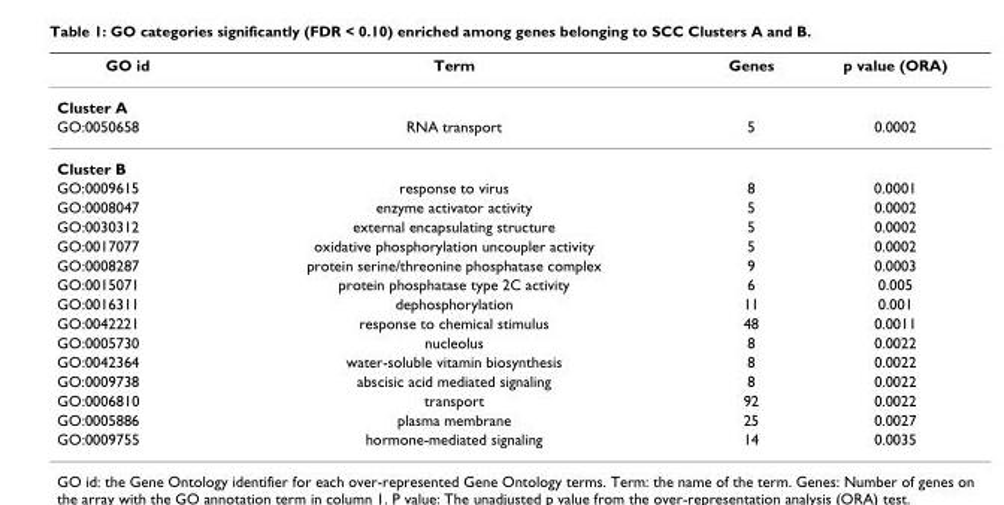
<table><thead><tr><td>GO id</td><td>Term</td><td>Genes</td><td>p value (ORA)</td></tr></thead><tbody><tr><td colspan="4">Cluster A</td></tr><tr><td>GO:0050658</td><td>RNA transport</td><td>5</td><td>0.0002</td></tr><tr><td colspan="4">Cluster B</td></tr><tr><td>GO:0009615</td><td>response to virus</td><td>8</td><td>0.0001</td></tr><tr><td>GO:0008047</td><td>enzyme activator activity</td><td>5</td><td>0.0002</td></tr><tr><td>GO:0030312</td><td>external encapsulating structure</td><td>5</td><td>0.0002</td></tr><tr><td>GO:0017077</td><td>oxidative phosphorylation uncoupler activity</td><td>5</td><td>0.0002</td></tr><tr><td>GO:0008287</td><td>protein serine/threonine phosphatase complex</td><td>9</td><td>0.0003</td></tr><tr><td>GO:0015071</td><td>protein phosphatase type 2C activity</td><td>6</td><td>0.005</td></tr><tr><td>GO:0016311</td><td>dephosphorylation</td><td>11</td><td>0.001</td></tr><tr><td>GO:0042221</td><td>response to chemical stimulus</td><td>48</td><td>0.0011</td></tr><tr><td>GO:0005730</td><td>nucleolus</td><td>8</td><td>0.0022</td></tr><tr><td>GO:0042364</td><td>water-soluble vitamin biosynthesis</td><td>8</td><td>0.0022</td></tr><tr><td>GO:0009738</td><td>abscisic acid mediated signaling</td><td>8</td><td>0.0022</td></tr><tr><td>GO:0006810</td><td>transport</td><td>92</td><td>0.0022</td></tr><tr><td>GO:0005886</td><td>plasma membrane</td><td>25</td><td>0.0027</td></tr><tr><td>GO:0009755</td><td>hormone-mediated signaling</td><td>14</td><td>0.0035</td></tr></tbody></table>